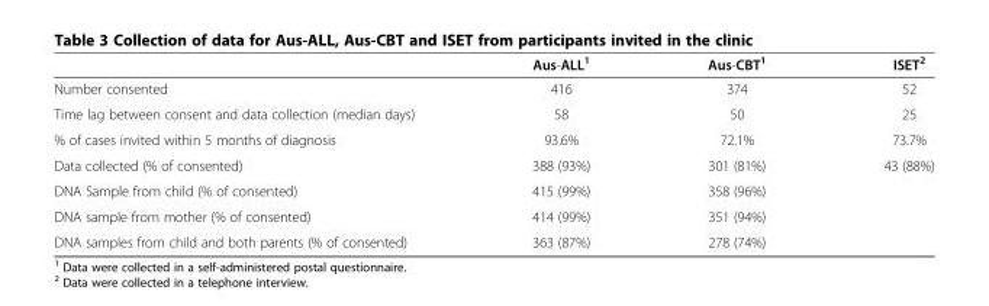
<table><thead><tr><td></td><td>Aus-ALL<sup>1</sup></td><td>Aus-CBT<sup>1</sup></td><td>ISET<sup>2</sup></td></tr></thead><tbody><tr><td>Number consented</td><td>416</td><td>374</td><td>52</td></tr><tr><td>Time lag between consent and data collection (median days)</td><td>58</td><td>50</td><td>25</td></tr><tr><td>% of cases invited within 5 months of diagnosis</td><td>93.6%</td><td>72.1%</td><td>73.7%</td></tr><tr><td>Data collected (% of consented)</td><td>388 (93%)</td><td>301 (81%)</td><td>43 (88%)</td></tr><tr><td>DNA Sample from child (% of consented)</td><td>415 (99%)</td><td>358 (96%)</td><td></td></tr><tr><td>DNA sample from mother (% of consented)</td><td>414 (99%)</td><td>351 (94%)</td><td></td></tr><tr><td>DNA samples from child and both parents (% of consented)</td><td>363 (87%)</td><td>278 (74%)</td><td></td></tr></tbody></table>